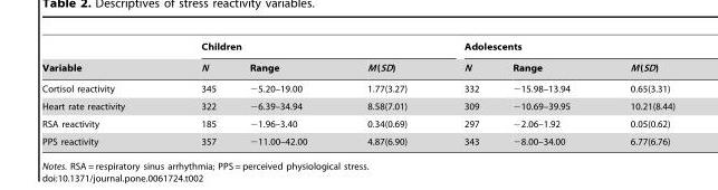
<table><thead><tr><td rowspan="2">Variable</td><td colspan="3">Children</td><td colspan="3">Adolescents</td></tr><tr><td>N</td><td>Range</td><td>M(SD)</td><td>N</td><td>Range</td><td>M(SD)</td></tr></thead><tbody><tr><td>Cortisol reactivity</td><td>345</td><td>−5.20–19.00</td><td>1.77(3.27)</td><td>332</td><td>−15.98–13.94</td><td>0.65(3.31)</td></tr><tr><td>Heart rate reactivity</td><td>322</td><td>−6.39–34.94</td><td>8.58(7.01)</td><td>309</td><td>−10.69–39.95</td><td>10.21(8.44)</td></tr><tr><td>RSA reactivity</td><td>185</td><td>−1.96–3.40</td><td>0.34(0.69)</td><td>297</td><td>−2.06–1.92</td><td>0.05(0.62)</td></tr><tr><td>PPS reactivity</td><td>357</td><td>−11.00–42.00</td><td>4.87(6.90)</td><td>343</td><td>−8.00–34.00</td><td>6.77(6.76)</td></tr></tbody></table>